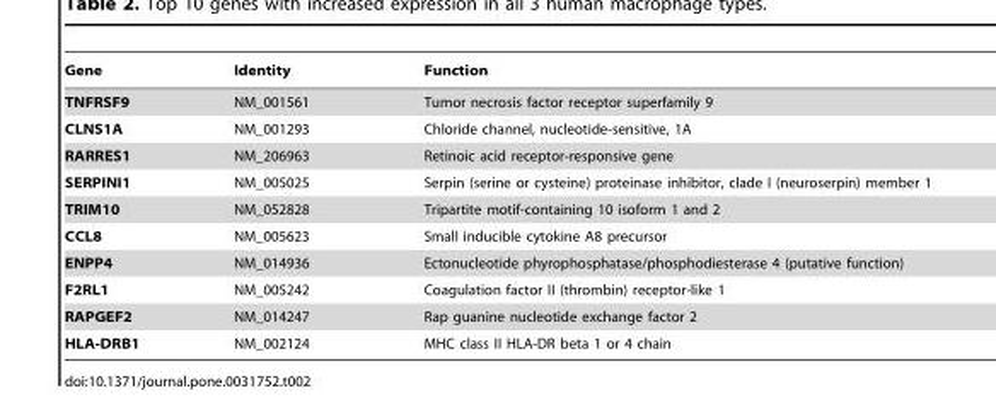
<table><thead><tr><td>Gene</td><td>Identity</td><td>Function</td></tr></thead><tbody><tr><td>TNFRSF9</td><td>NM_001561</td><td>Tumor necrosis factor receptor superfamily 9</td></tr><tr><td>CLNS1A</td><td>NM_001293</td><td>Chloride channel, nucleotide-sensitive, 1A</td></tr><tr><td>RARRES1</td><td>NM_206963</td><td>Retinoic acid receptor-responsive gene</td></tr><tr><td>SERPINI1</td><td>NM_005025</td><td>Serpin (serine or cysteine) proteinase inhibitor, clade I (neuroserpin) member 1</td></tr><tr><td>TRIM10</td><td>NM_052828</td><td>Tripartite motif-containing 10 isoform 1 and 2</td></tr><tr><td>CCL8</td><td>NM_005623</td><td>Small inducible cytokine A8 precursor</td></tr><tr><td>ENPP4</td><td>NM_014936</td><td>Ectonucleotide phyrophosphatase/phosphodiesterase 4 (putative function)</td></tr><tr><td>F2RL1</td><td>NM_005242</td><td>Coagulation factor II (thrombin) receptor-like 1</td></tr><tr><td>RAPGEF2</td><td>NM_014247</td><td>Rap guanine nucleotide exchange factor 2</td></tr><tr><td>HLA-DRB1</td><td>NM_002124</td><td>MHC class II HLA-DR beta 1 or 4 chain</td></tr></tbody></table>